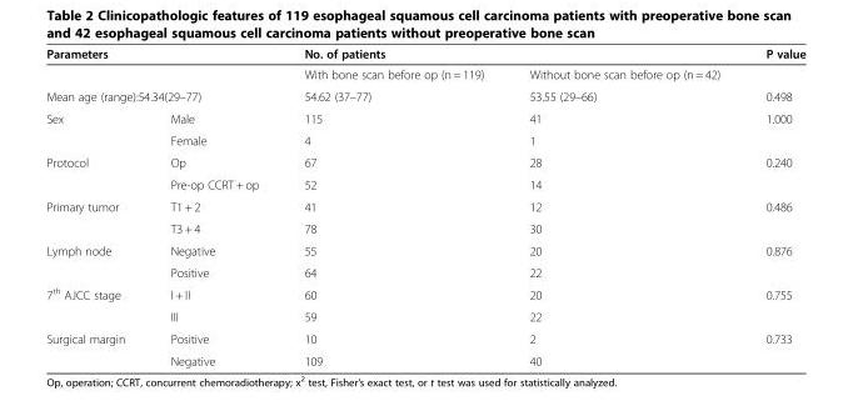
<table><thead><tr><td rowspan="2">Parameters</td><td rowspan="2"></td><td colspan="2">No. of patients</td><td rowspan="2">P value</td></tr><tr><td>With bone scan before op (n = 119)</td><td>Without bone scan before op (n = 42)</td></tr></thead><tbody><tr><td colspan="2">Mean age (range):54.34(29–77)</td><td>54.62 (37–77)</td><td>53.55 (29–66)</td><td>0.498</td></tr><tr><td rowspan="2">Sex</td><td>Male</td><td>115</td><td>41</td><td>1.000</td></tr><tr><td>Female</td><td>4</td><td>1</td><td></td></tr><tr><td rowspan="2">Protocol</td><td>Op</td><td>67</td><td>28</td><td>0.240</td></tr><tr><td>Pre-op CCRT + op</td><td>52</td><td>14</td><td></td></tr><tr><td rowspan="2">Primary tumor</td><td>T1 + 2</td><td>41</td><td>12</td><td>0.486</td></tr><tr><td>T3 + 4</td><td>78</td><td>30</td><td></td></tr><tr><td rowspan="2">Lymph node</td><td>Negative</td><td>55</td><td>20</td><td>0.876</td></tr><tr><td>Positive</td><td>64</td><td>22</td><td></td></tr><tr><td rowspan="2">7<sup>th</sup> AJCC stage</td><td>I + II</td><td>60</td><td>20</td><td>0.755</td></tr><tr><td>III</td><td>59</td><td>22</td><td></td></tr><tr><td rowspan="2">Surgical margin</td><td>Positive</td><td>10</td><td>2</td><td>0.733</td></tr><tr><td>Negative</td><td>109</td><td>40</td><td></td></tr></tbody></table>